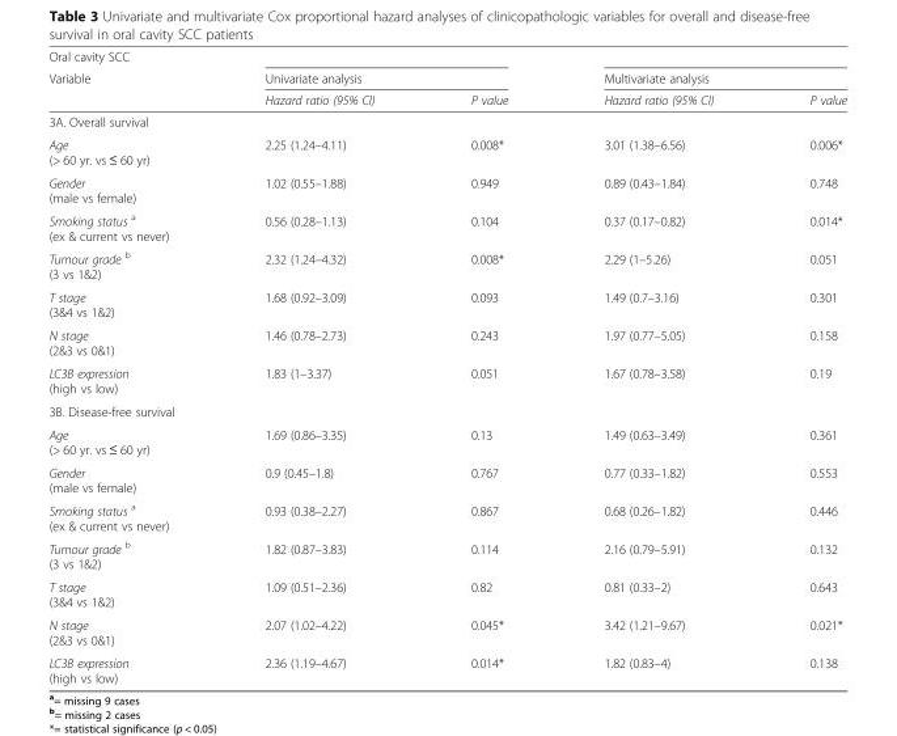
<table><thead><tr><td rowspan="3">Oral cavity SCC Variable</td><td></td><td></td><td></td><td></td></tr><tr><td colspan="2">Univariate analysis</td><td colspan="2">Multivariate analysis</td></tr><tr><td>Hazard ratio (95% Cl)</td><td>P value</td><td>Hazard ratio (95% Cl)</td><td>P value</td></tr></thead><tbody><tr><td colspan="5">3A. Overall survival</td></tr><tr><td>Age (&gt; 60 yr. vs ≤ 60 yr)</td><td>2.25 (1.24–4.11)</td><td>0.008*</td><td>3.01 (1.38–6.56)</td><td>0.006*</td></tr><tr><td>Gender (male vs female)</td><td>1.02 (0.55–1.88)</td><td>0.949</td><td>0.89 (0.43–1.84)</td><td>0.748</td></tr><tr><td>Smoking status <sup>a</sup> (ex &amp; current vs never)</td><td>0.56 (0.28–1.13)</td><td>0.104</td><td>0.37 (0.17–0.82)</td><td>0.014*</td></tr><tr><td>Tumour grade <sup>b</sup> (3 vs 1&amp;2)</td><td>2.32 (1.24–4.32)</td><td>0.008*</td><td>2.29 (1–5.26)</td><td>0.051</td></tr><tr><td>T stage (3&amp;4 vs 1&amp;2)</td><td>1.68 (0.92–3.09)</td><td>0.093</td><td>1.49 (0.7–3.16)</td><td>0.301</td></tr><tr><td>N stage (2&amp;3 vs 0&amp;1)</td><td>1.46 (0.78–2.73)</td><td>0.243</td><td>1.97 (0.77–5.05)</td><td>0.158</td></tr><tr><td>LC3B expression (high vs low)</td><td>1.83 (1–3.37)</td><td>0.051</td><td>1.67 (0.78–3.58)</td><td>0.19</td></tr><tr><td colspan="5">3B. Disease-free survival</td></tr><tr><td>Age (&gt; 60 yr. vs ≤ 60 yr)</td><td>1.69 (0.86–3.35)</td><td>0.13</td><td>1.49 (0.63–3.49)</td><td>0.361</td></tr><tr><td>Gender (male vs female)</td><td>0.9 (0.45–1.8)</td><td>0.767</td><td>0.77 (0.33–1.82)</td><td>0.553</td></tr><tr><td>Smoking status <sup>a</sup> (ex &amp; current vs never)</td><td>0.93 (0.38–2.27)</td><td>0.867</td><td>0.68 (0.26–1.82)</td><td>0.446</td></tr><tr><td>Tumour grade <sup>b</sup> (3 vs 1&amp;2)</td><td>1.82 (0.87–3.83)</td><td>0.114</td><td>2.16 (0.79–5.91)</td><td>0.132</td></tr><tr><td>T stage (3&amp;4 vs 1&amp;2)</td><td>1.09 (0.51–2.36)</td><td>0.82</td><td>0.81 (0.33–2)</td><td>0.643</td></tr><tr><td>N stage (2&amp;3 vs 0&amp;1)</td><td>2.07 (1.02–4.22)</td><td>0.045*</td><td>3.42 (1.21–9.67)</td><td>0.021*</td></tr><tr><td>LC3B expression (high vs low)</td><td>2.36 (1.19–4.67)</td><td>0.014*</td><td>1.82 (0.83–4)</td><td>0.138</td></tr></tbody></table>